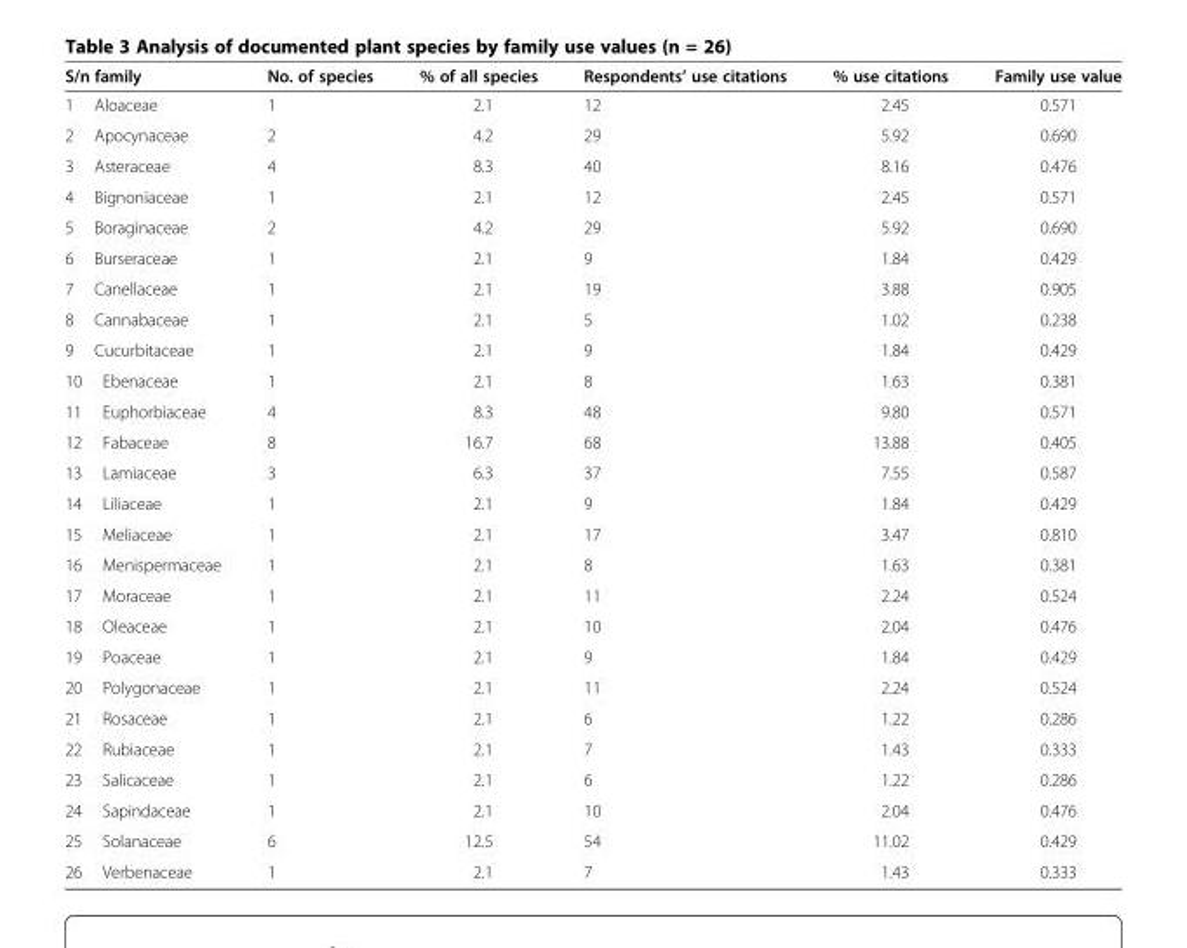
<table><thead><tr><td>S/n family</td><td>No. of species</td><td>% of all species</td><td>Respondents’ use citations</td><td>% use citations</td><td>Family use value</td></tr></thead><tbody><tr><td>1 Aloaceae</td><td>1</td><td>2.1</td><td>12</td><td>2.45</td><td>0.571</td></tr><tr><td>2 Apocynaceae</td><td>2</td><td>4.2</td><td>29</td><td>5.92</td><td>0.690</td></tr><tr><td>3 Asteraceae</td><td>4</td><td>8.3</td><td>40</td><td>8.16</td><td>0.476</td></tr><tr><td>4 Bignoniaceae</td><td>1</td><td>2.1</td><td>12</td><td>2.45</td><td>0.571</td></tr><tr><td>5 Boraginaceae</td><td>2</td><td>4.2</td><td>29</td><td>5.92</td><td>0.690</td></tr><tr><td>6 Burseraceae</td><td>1</td><td>2.1</td><td>9</td><td>1.84</td><td>0.429</td></tr><tr><td>7 Canellaceae</td><td>1</td><td>2.1</td><td>19</td><td>3.88</td><td>0.905</td></tr><tr><td>8 Cannabaceae</td><td>1</td><td>2.1</td><td>5</td><td>1.02</td><td>0.238</td></tr><tr><td>9 Cucurbitaceae</td><td>1</td><td>2.1</td><td>9</td><td>1.84</td><td>0.429</td></tr><tr><td>10 Ebenaceae</td><td>1</td><td>2.1</td><td>8</td><td>1.63</td><td>0.381</td></tr><tr><td>11 Euphorbiaceae</td><td>4</td><td>8.3</td><td>48</td><td>9.80</td><td>0.571</td></tr><tr><td>12 Fabaceae</td><td>8</td><td>16.7</td><td>68</td><td>13.88</td><td>0.405</td></tr><tr><td>13 Lamiaceae</td><td>3</td><td>6.3</td><td>37</td><td>7.55</td><td>0.587</td></tr><tr><td>14 Liliaceae</td><td>1</td><td>2.1</td><td>9</td><td>1.84</td><td>0.429</td></tr><tr><td>15 Meliaceae</td><td>1</td><td>2.1</td><td>17</td><td>3.47</td><td>0.810</td></tr><tr><td>16 Menispermaceae</td><td>1</td><td>2.1</td><td>8</td><td>1.63</td><td>0.381</td></tr><tr><td>17 Moraceae</td><td>1</td><td>2.1</td><td>11</td><td>2.24</td><td>0.524</td></tr><tr><td>18 Oleaceae</td><td>1</td><td>2.1</td><td>10</td><td>2.04</td><td>0.476</td></tr><tr><td>19 Poaceae</td><td>1</td><td>2.1</td><td>9</td><td>1.84</td><td>0.429</td></tr><tr><td>20 Polygonaceae</td><td>1</td><td>2.1</td><td>11</td><td>2.24</td><td>0.524</td></tr><tr><td>21 Rosaceae</td><td>1</td><td>2.1</td><td>6</td><td>1.22</td><td>0.286</td></tr><tr><td>22 Rubiaceae</td><td>1</td><td>2.1</td><td>7</td><td>1.43</td><td>0.333</td></tr><tr><td>23 Salicaceae</td><td>1</td><td>2.1</td><td>6</td><td>1.22</td><td>0.286</td></tr><tr><td>24 Sapindaceae</td><td>1</td><td>2.1</td><td>10</td><td>2.04</td><td>0.476</td></tr><tr><td>25 Solanaceae</td><td>6</td><td>12.5</td><td>54</td><td>11.02</td><td>0.429</td></tr><tr><td>26 Verbenaceae</td><td>1</td><td>2.1</td><td>7</td><td>1.43</td><td>0.333</td></tr></tbody></table>